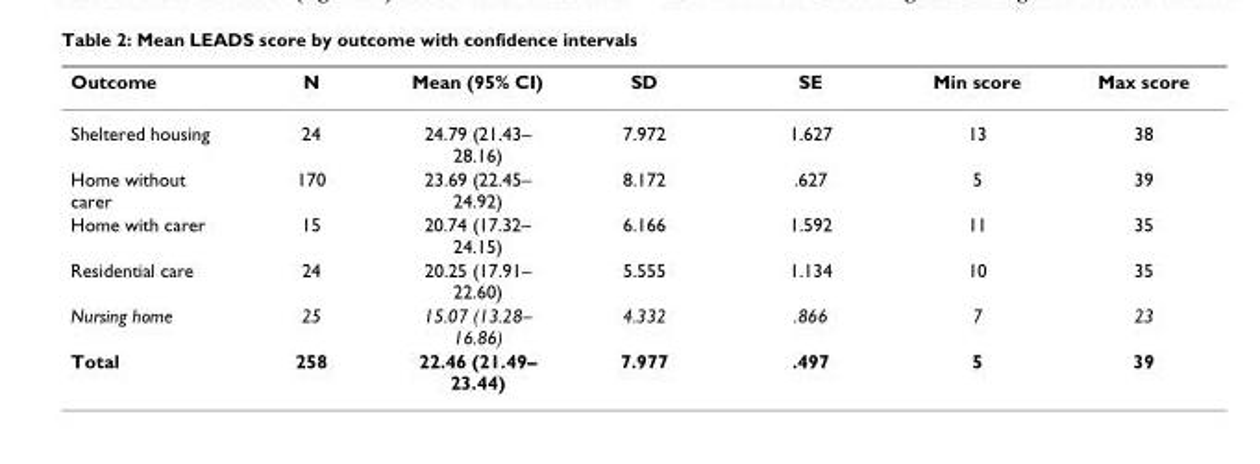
<table><thead><tr><td>Outcome</td><td>N</td><td>Mean (95% CI)</td><td>SD</td><td>SE</td><td>Min score</td><td>Max score</td></tr></thead><tbody><tr><td>Sheltered housing</td><td>24</td><td>24.79 (21.43– 28.16)</td><td>7.972</td><td>1.627</td><td>13</td><td>38</td></tr><tr><td>Home without carer</td><td>170</td><td>23.69 (22.45– 24.92)</td><td>8.172</td><td>.627</td><td>5</td><td>39</td></tr><tr><td>Home with carer</td><td>15</td><td>20.74 (17.32– 24.15)</td><td>6.166</td><td>1.592</td><td>11</td><td>35</td></tr><tr><td>Residential care</td><td>24</td><td>20.25 (17.91– 22.60)</td><td>5.555</td><td>1.134</td><td>10</td><td>35</td></tr><tr><td>Nursing home</td><td>25</td><td>15.07 (13.28– 16.86)</td><td>4.332</td><td>.866</td><td>7</td><td>23</td></tr><tr><td>Total</td><td>258</td><td>22.46 (21.49– 23.44)</td><td>7.977</td><td>.497</td><td>5</td><td>39</td></tr></tbody></table>